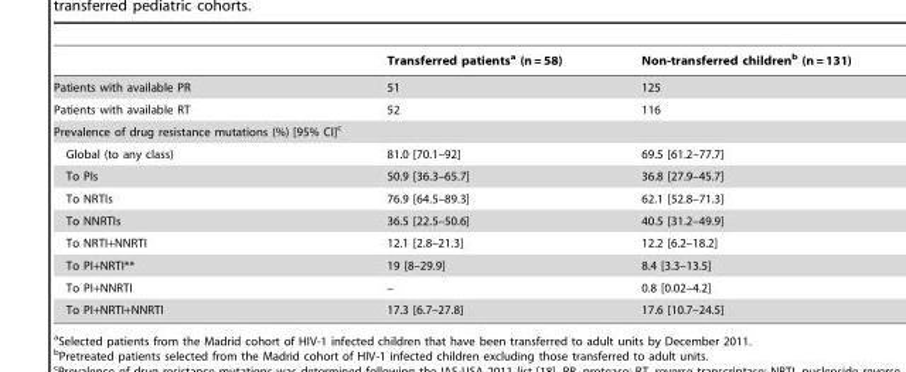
<table><thead><tr><td></td><td>Transferred patients<sup>a</sup> (n = 58)</td><td>Non-transferred children<sup>b</sup> (n = 131)</td></tr></thead><tbody><tr><td>Patients with available PR</td><td>51</td><td>125</td></tr><tr><td>Patients with available RT</td><td>52</td><td>116</td></tr><tr><td colspan="3">Prevalence of drug resistance mutations (%) [95% CI]<sup>c</sup></td></tr><tr><td>Global (to any class)</td><td>81.0 [70.1–92]</td><td>69.5 [61.2–77.7]</td></tr><tr><td>To PIs</td><td>50.9 [36.3–65.7]</td><td>36.8 [27.9–45.7]</td></tr><tr><td>To NRTIs</td><td>76.9 [64.5–89.3]</td><td>62.1 [52.8–71.3]</td></tr><tr><td>To NNRTIs</td><td>36.5 [22.5–50.6]</td><td>40.5 [31.2–49.9]</td></tr><tr><td>To NRTI+NNRTI</td><td>12.1 [2.8–21.3]</td><td>12.2 [6.2–18.2]</td></tr><tr><td>To PI+NRTI**</td><td>19 [8–29.9]</td><td>8.4 [3.3–13.5]</td></tr><tr><td>To PI+NNRTI</td><td>–</td><td>0.8 [0.02–4.2]</td></tr><tr><td>To PI+NRTI+NNRTI</td><td>17.3 [6.7–27.8]</td><td>17.6 [10.7–24.5]</td></tr></tbody></table>